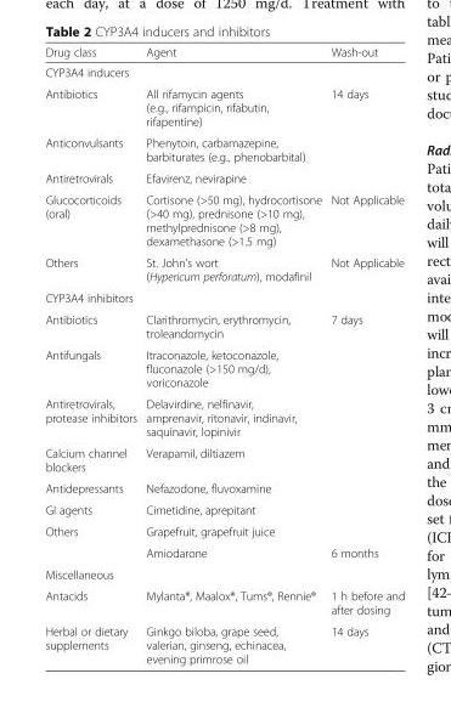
<table><thead><tr><td>Drug class</td><td>Agent</td><td>Wash-out</td></tr></thead><tbody><tr><td colspan="3">CYP3A4 inducers</td></tr><tr><td>Antibiotics</td><td>All rifamycin agents (e.g., rifampicin, rifabutin, rifapentine)</td><td rowspan="3">14 days</td></tr><tr><td>Anticonvulsants</td><td>Phenytoin, carbamazepine, barbiturates (e.g., phenobarbital)</td></tr><tr><td>Antiretrovirals</td><td>Efavirenz, nevirapine</td></tr><tr><td>Glucocorticoids (oral)</td><td>Cortisone (&gt;50 mg), hydrocortisone (&gt;40 mg), prednisone (&gt;10 mg), methylprednisone (&gt;8 mg), dexamethasone (&gt;1.5 mg)</td><td>Not Applicable</td></tr><tr><td>Others</td><td>St. John’s wort (Hypericum perforatum), modafinil</td><td>Not Applicable</td></tr><tr><td colspan="3">CYP3A4 inhibitors</td></tr><tr><td>Antibiotics</td><td>Clarithromycin, erythromycin, troleandomycin</td><td rowspan="7">7 days</td></tr><tr><td>Antifungals</td><td>Itraconazole, ketoconazole, fluconazole (&gt;150 mg/d), voriconazole</td></tr><tr><td>Antiretrovirals, protease inhibitors</td><td>Delavirdine, nelfinavir, amprenavir, ritonavir, indinavir, saquinavir, lopinivir</td></tr><tr><td>Calcium channel blockers</td><td>Verapamil, diltiazem</td></tr><tr><td>Antidepressants</td><td>Nefazodone, fluvoxamine</td></tr><tr><td>GI agents</td><td>Cimetidine, aprepitant</td></tr><tr><td rowspan="2">Others</td><td>Grapefruit, grapefruit juice</td></tr><tr><td>Amiodarone</td><td>6 months</td></tr><tr><td colspan="3">Miscellaneous</td></tr><tr><td>Antacids</td><td>Mylanta®, Maalox®, Tums®, Rennie®</td><td>1 h before and after dosing</td></tr><tr><td>Herbal or dietary supplements</td><td>Ginkgo biloba, grape seed, valerian, ginseng, echinacea, evening primrose oil</td><td>14 days</td></tr></tbody></table>